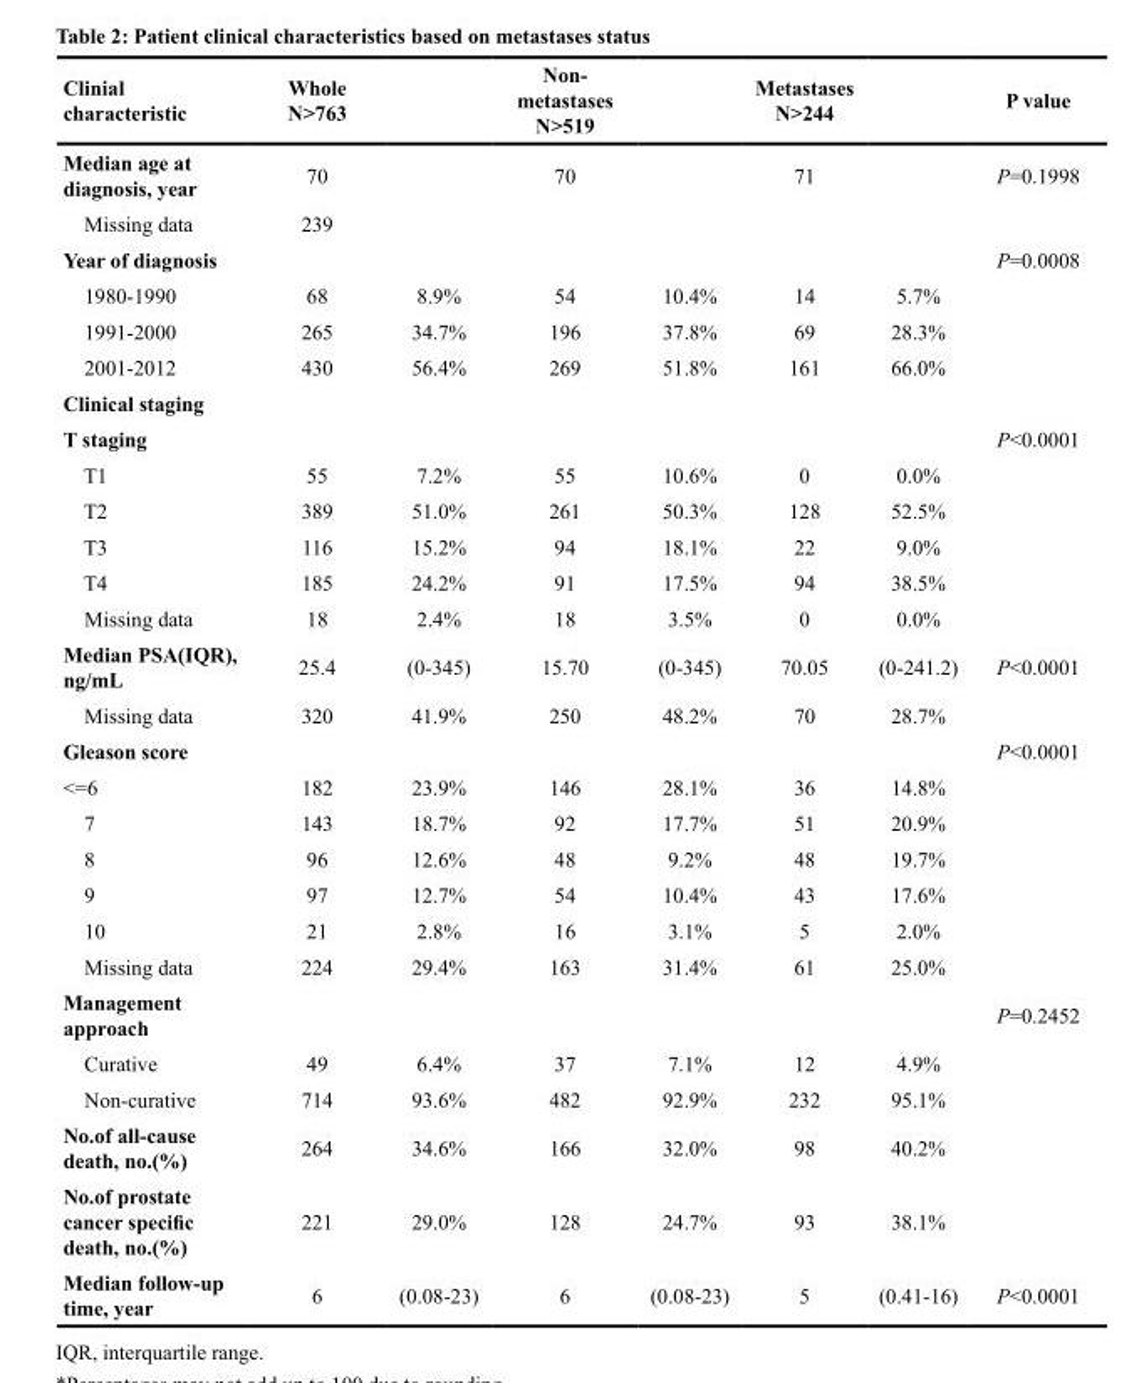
<table><thead><tr><td>Clinial characteristic</td><td>Whole N&gt;763</td><td></td><td>Non- metastases N&gt;519</td><td></td><td>Metastases N&gt;244</td><td></td><td>P value</td></tr></thead><tbody><tr><td>Median age at diagnosis, year</td><td>70</td><td></td><td>70</td><td></td><td>71</td><td></td><td>P=0.1998</td></tr><tr><td>Missing data</td><td>239</td><td></td><td></td><td></td><td></td><td></td><td></td></tr><tr><td>Year of diagnosis</td><td></td><td></td><td></td><td></td><td></td><td></td><td>P=0.0008</td></tr><tr><td>1980-1990</td><td>68</td><td>8.9%</td><td>54</td><td>10.4%</td><td>14</td><td>5.7%</td><td></td></tr><tr><td>1991-2000</td><td>265</td><td>34.7%</td><td>196</td><td>37.8%</td><td>69</td><td>28.3%</td><td></td></tr><tr><td>2001-2012</td><td>430</td><td>56.4%</td><td>269</td><td>51.8%</td><td>161</td><td>66.0%</td><td></td></tr><tr><td colspan="8">Clinical staging</td></tr><tr><td>T staging</td><td></td><td></td><td></td><td></td><td></td><td></td><td>P&lt;0.0001</td></tr><tr><td>T1</td><td>55</td><td>7.2%</td><td>55</td><td>10.6%</td><td>0</td><td>0.0%</td><td></td></tr><tr><td>T2</td><td>389</td><td>51.0%</td><td>261</td><td>50.3%</td><td>128</td><td>52.5%</td><td></td></tr><tr><td>T3</td><td>116</td><td>15.2%</td><td>94</td><td>18.1%</td><td>22</td><td>9.0%</td><td></td></tr><tr><td>T4</td><td>185</td><td>24.2%</td><td>91</td><td>17.5%</td><td>94</td><td>38.5%</td><td></td></tr><tr><td>Missing data</td><td>18</td><td>2.4%</td><td>18</td><td>3.5%</td><td>0</td><td>0.0%</td><td></td></tr><tr><td>Median PSA(IQR), ng/mL</td><td>25.4</td><td>(0-345)</td><td>15.70</td><td>(0-345)</td><td>70.05</td><td>(0-241.2)</td><td>P&lt;0.0001</td></tr><tr><td>Missing data</td><td>320</td><td>41.9%</td><td>250</td><td>48.2%</td><td>70</td><td>28.7%</td><td></td></tr><tr><td>Gleason score</td><td></td><td></td><td></td><td></td><td></td><td></td><td>P&lt;0.0001</td></tr><tr><td>&lt;=6</td><td>182</td><td>23.9%</td><td>146</td><td>28.1%</td><td>36</td><td>14.8%</td><td></td></tr><tr><td>7</td><td>143</td><td>18.7%</td><td>92</td><td>17.7%</td><td>51</td><td>20.9%</td><td></td></tr><tr><td>8</td><td>96</td><td>12.6%</td><td>48</td><td>9.2%</td><td>48</td><td>19.7%</td><td></td></tr><tr><td>9</td><td>97</td><td>12.7%</td><td>54</td><td>10.4%</td><td>43</td><td>17.6%</td><td></td></tr><tr><td>10</td><td>21</td><td>2.8%</td><td>16</td><td>3.1%</td><td>5</td><td>2.0%</td><td></td></tr><tr><td>Missing data</td><td>224</td><td>29.4%</td><td>163</td><td>31.4%</td><td>61</td><td>25.0%</td><td></td></tr><tr><td>Management approach</td><td></td><td></td><td></td><td></td><td></td><td></td><td>P=0.2452</td></tr><tr><td>Curative</td><td>49</td><td>6.4%</td><td>37</td><td>7.1%</td><td>12</td><td>4.9%</td><td></td></tr><tr><td>Non-curative</td><td>714</td><td>93.6%</td><td>482</td><td>92.9%</td><td>232</td><td>95.1%</td><td></td></tr><tr><td>No.of all-cause death, no.(%)</td><td>264</td><td>34.6%</td><td>166</td><td>32.0%</td><td>98</td><td>40.2%</td><td></td></tr><tr><td>No.of prostate cancer specific death, no.(%)</td><td>221</td><td>29.0%</td><td>128</td><td>24.7%</td><td>93</td><td>38.1%</td><td></td></tr><tr><td>Median follow-up time, year</td><td>6</td><td>(0.08-23)</td><td>6</td><td>(0.08-23)</td><td>5</td><td>(0.41-16)</td><td>P&lt;0.0001</td></tr></tbody></table>